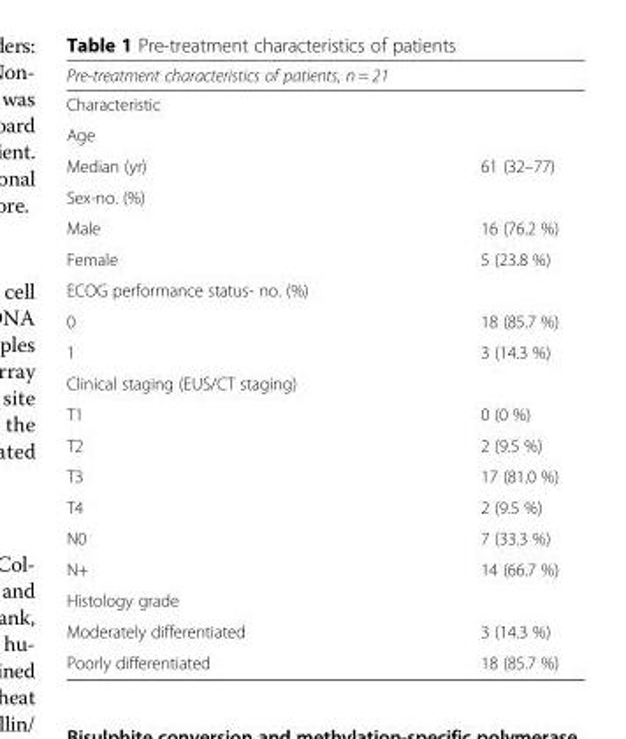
<table><thead><tr><td rowspan="3" colspan="2">Pre-treatment characteristics of patients, n = 21 Characteristic Age</td></tr><tr></tr><tr></tr><tr><td>Median (yr)</td><td>61 (32–77)</td></tr></thead><tbody><tr><td colspan="2">Sex-no. (%)</td></tr><tr><td>Male</td><td>16 (76.2 %)</td></tr><tr><td>Female</td><td>5 (23.8 %)</td></tr><tr><td colspan="2">ECOG performance status- no. (%)</td></tr><tr><td>0</td><td>18 (85.7 %)</td></tr><tr><td>1</td><td>3 (14.3 %)</td></tr><tr><td colspan="2">Clinical staging (EUS/CT staging)</td></tr><tr><td>T1</td><td>0 (0 %)</td></tr><tr><td>T2</td><td>2 (9.5 %)</td></tr><tr><td>T3</td><td>17 (81.0 %)</td></tr><tr><td>T4</td><td>2 (9.5 %)</td></tr><tr><td>N0</td><td>7 (33.3 %)</td></tr><tr><td>N+</td><td>14 (66.7 %)</td></tr><tr><td colspan="2">Histology grade</td></tr><tr><td>Moderately differentiated</td><td>3 (14.3 %)</td></tr><tr><td>Poorly differentiated</td><td>18 (85.7 %)</td></tr></tbody></table>